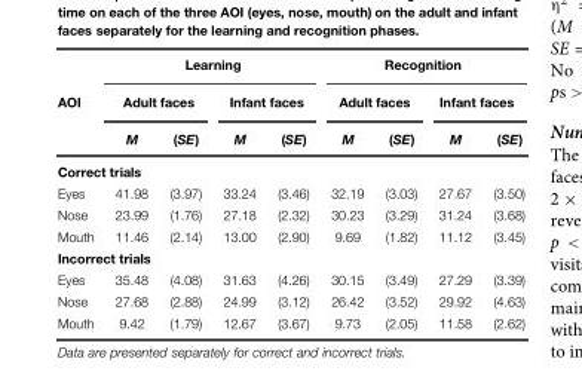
<table><thead><tr><td rowspan="3">AOI</td><td colspan="4">Learning</td><td colspan="4">Recognition</td></tr><tr><td colspan="2">Adult faces</td><td colspan="2">Infant faces</td><td colspan="2">Adult faces</td><td colspan="2">Infant faces</td></tr><tr><td>M</td><td>(SE)</td><td>M</td><td>(SE)</td><td>M</td><td>(SE)</td><td>M</td><td>(SE)</td></tr></thead><tbody><tr><td colspan="9">Correct trials</td></tr><tr><td>Eyes</td><td>41.98</td><td>(3.97)</td><td>33.24</td><td>(3.46)</td><td>32.19</td><td>(3.03)</td><td>27.67</td><td>(3.50)</td></tr><tr><td>Nose</td><td>23.99</td><td>(1.76)</td><td>27.18</td><td>(2.32)</td><td>30.23</td><td>(3.29)</td><td>31.24</td><td>(3.68)</td></tr><tr><td>Mouth</td><td>11.46</td><td>(2.14)</td><td>13.00</td><td>(2.90)</td><td>9.69</td><td>(1.82)</td><td>11.12</td><td>(3.45)</td></tr><tr><td colspan="9">Incorrect trials</td></tr><tr><td>Eyes</td><td>35.48</td><td>(4.08)</td><td>31.63</td><td>(4.26)</td><td>30.15</td><td>(3.49)</td><td>27.29</td><td>(3.39)</td></tr><tr><td>Nose</td><td>27.68</td><td>(2.88)</td><td>24.99</td><td>(3.12)</td><td>26.42</td><td>(3.52)</td><td>29.92</td><td>(4.63)</td></tr><tr><td>Mouth</td><td>9.42</td><td>(1.79)</td><td>12.67</td><td>(3.67)</td><td>9.73</td><td>(2.05)</td><td>11.58</td><td>(2.62)</td></tr></tbody></table>